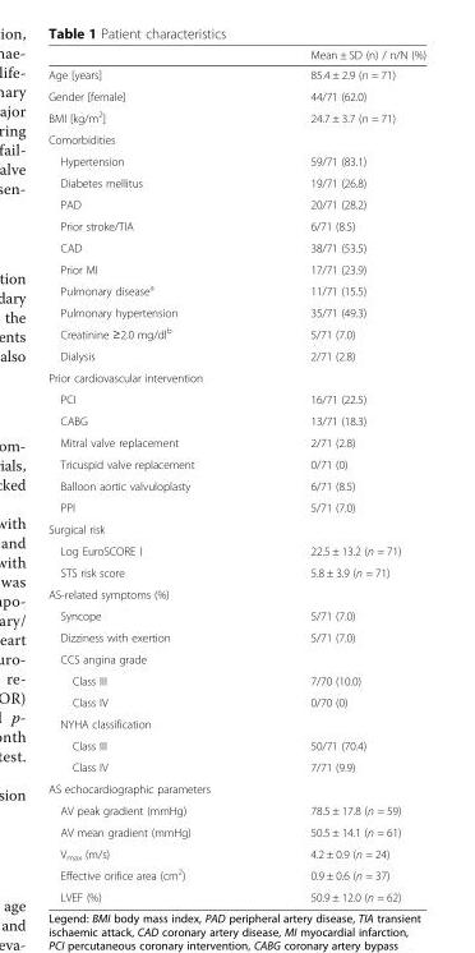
<table><thead><tr><td></td><td>Mean ± SD (n) / n/N (%)</td></tr></thead><tbody><tr><td>Age [years]</td><td>85.4 ± 2.9 (n = 71)</td></tr><tr><td>Gender [female]</td><td>44/71 (62.0)</td></tr><tr><td>BMI [kg/m<sup>2</sup>]</td><td>24.7 ± 3.7 (n = 71)</td></tr><tr><td colspan="2">Comorbidities</td></tr><tr><td>Hypertension</td><td>59/71 (83.1)</td></tr><tr><td>Diabetes mellitus</td><td>19/71 (26.8)</td></tr><tr><td>PAD</td><td>20/71 (28.2)</td></tr><tr><td>Prior stroke/TIA</td><td>6/71 (8.5)</td></tr><tr><td>CAD</td><td>38/71 (53.5)</td></tr><tr><td>Prior MI</td><td>17/71 (23.9)</td></tr><tr><td>Pulmonary disease<sup>a</sup></td><td>11/71 (15.5)</td></tr><tr><td>Pulmonary hypertension</td><td>35/71 (49.3)</td></tr><tr><td>Creatinine ≥2.0 mg/dl<sup>b</sup></td><td>5/71 (7.0)</td></tr><tr><td>Dialysis</td><td>2/71 (2.8)</td></tr><tr><td colspan="2">Prior cardiovascular intervention</td></tr><tr><td>PCI</td><td>16/71 (22.5)</td></tr><tr><td>CABG</td><td>13/71 (18.3)</td></tr><tr><td>Mitral valve replacement</td><td>2/71 (2.8)</td></tr><tr><td>Tricuspid valve replacement</td><td>0/71 (0)</td></tr><tr><td>Balloon aortic valvuloplasty</td><td>6/71 (8.5)</td></tr><tr><td>PPI</td><td>5/71 (7.0)</td></tr><tr><td colspan="2">Surgical risk</td></tr><tr><td>Log EuroSCORE I</td><td>22.5 ± 13.2 (n = 71)</td></tr><tr><td>STS risk score</td><td>5.8 ± 3.9 (n = 71)</td></tr><tr><td colspan="2">AS-related symptoms (%)</td></tr><tr><td>Syncope</td><td>5/71 (7.0)</td></tr><tr><td>Dizziness with exertion</td><td>5/71 (7.0)</td></tr><tr><td colspan="2">CCS angina grade</td></tr><tr><td>Class III</td><td>7/70 (10.0)</td></tr><tr><td>Class IV</td><td>0/70 (0)</td></tr><tr><td colspan="2">NYHA classification</td></tr><tr><td>Class III</td><td>50/71 (70.4)</td></tr><tr><td>Class IV</td><td>7/71 (9.9)</td></tr><tr><td colspan="2">AS echocardiographic parameters</td></tr><tr><td>AV peak gradient (mmHg)</td><td>78.5 ± 17.8 (n = 59)</td></tr><tr><td>AV mean gradient (mmHg)</td><td>50.5 ± 14.1 (n = 61)</td></tr><tr><td>V<sub>max</sub> (m/s)</td><td>4.2 ± 0.9 (n = 24)</td></tr><tr><td>Effective orifice area (cm<sup>2</sup>)</td><td>0.9 ± 0.6 (n = 37)</td></tr><tr><td>LVEF (%)</td><td>50.9 ± 12.0 (n = 62)</td></tr></tbody></table>